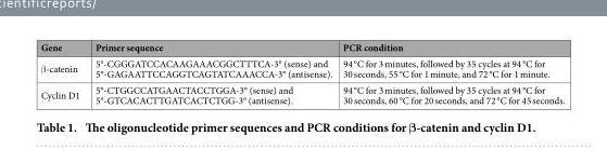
<table><thead><tr><td>Gene</td><td>Primer sequence</td><td>PCR condition</td></tr></thead><tbody><tr><td>β -catenin</td><td>5°-CGGGATCCACAAGAAACGGCTTTCA-3° (sense) and 5°-GAGAATTCCAGGTCAGTATCAAACCA-3° (antisense).</td><td>94 °C for 3 minutes, followed by 35 cycles at 94 °C for 30 seconds, 55 °C for 1 minute, and 72 °C for 1 minute.</td></tr><tr><td>Cyclin D1</td><td>5°-CTGGCCATGAACTACCTGGA-3° (sense) and 5°-GTCACACTTGATCACTCTGG-3° (antisense).</td><td>94 °C for 3 minutes, followed by 35 cycles at 94 °C for 30 seconds, 60 °C for 20 seconds, and 72 °C for 45 seconds.</td></tr></tbody></table>